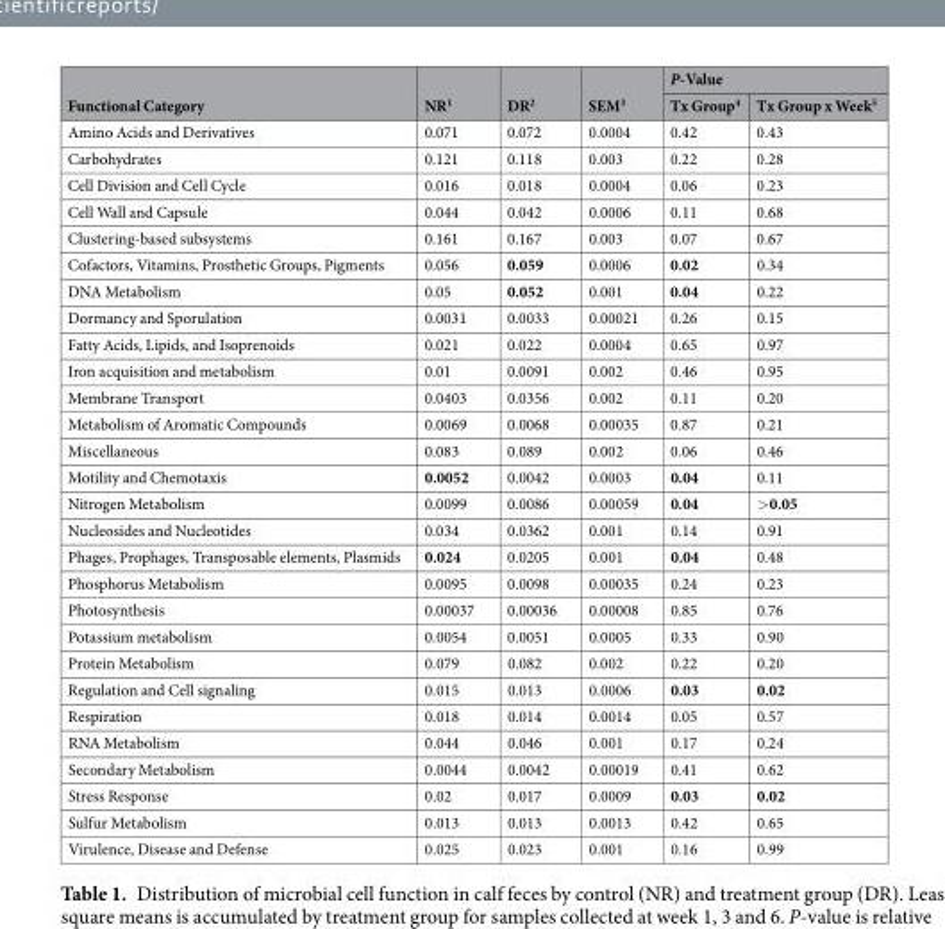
<table><thead><tr><td rowspan="2">Functional Category</td><td rowspan="2">NR<sup>1</sup></td><td rowspan="2">DR<sup>2</sup></td><td rowspan="2">SEM<sup>3</sup></td><td colspan="2">P-Value</td></tr><tr><td>Tx Group<sup>4</sup></td><td>Tx Group x Week<sup>5</sup></td></tr></thead><tbody><tr><td>Amino Acids and Derivatives</td><td>0.071</td><td>0.072</td><td>0.0004</td><td>0.42</td><td>0.43</td></tr><tr><td>Carbohydrates</td><td>0.121</td><td>0.118</td><td>0.003</td><td>0.22</td><td>0.28</td></tr><tr><td>Cell Division and Cell Cycle</td><td>0.016</td><td>0.018</td><td>0.0004</td><td>0.06</td><td>0.23</td></tr><tr><td>Cell Wall and Capsule</td><td>0.044</td><td>0.042</td><td>0.0006</td><td>0.11</td><td>0.68</td></tr><tr><td>Clustering-based subsystems</td><td>0.161</td><td>0.167</td><td>0.003</td><td>0.07</td><td>0.67</td></tr><tr><td>Cofactors, Vitamins, Prosthetic Groups, Pigments</td><td>0.056</td><td>0.059</td><td>0.0006</td><td>0.02</td><td>0.34</td></tr><tr><td>DNA Metabolism</td><td>0.05</td><td>0.052</td><td>0.001</td><td>0.04</td><td>0.22</td></tr><tr><td>Dormancy and Sporulation</td><td>0.0031</td><td>0.0033</td><td>0.00021</td><td>0.26</td><td>0.15</td></tr><tr><td>Fatty Acids, Lipids, and Isoprenoids</td><td>0.021</td><td>0.022</td><td>0.0004</td><td>0.65</td><td>0.97</td></tr><tr><td>Iron acquisition and metabolism</td><td>0.01</td><td>0.0091</td><td>0.002</td><td>0.46</td><td>0.95</td></tr><tr><td>Membrane Transport</td><td>0.0403</td><td>0.0356</td><td>0.002</td><td>0.11</td><td>0.20</td></tr><tr><td>Metabolism of Aromatic Compounds</td><td>0.0069</td><td>0.0068</td><td>0.00035</td><td>0.87</td><td>0.21</td></tr><tr><td>Miscellaneous</td><td>0.083</td><td>0.089</td><td>0.002</td><td>0.06</td><td>0.46</td></tr><tr><td>Motility and Chemotaxis</td><td>0.0052</td><td>0.0042</td><td>0.0003</td><td>0.04</td><td>0.11</td></tr><tr><td>Nitrogen Metabolism</td><td>0.0099</td><td>0.0086</td><td>0.00059</td><td>0.04</td><td>&gt;0.05</td></tr><tr><td>Nucleosides and Nucleotides</td><td>0.034</td><td>0.0362</td><td>0.001</td><td>0.14</td><td>0.91</td></tr><tr><td>Phages, Prophages, Transposable elements, Plasmids</td><td>0.024</td><td>0.0205</td><td>0.001</td><td>0.04</td><td>0.48</td></tr><tr><td>Phosphorus Metabolism</td><td>0.0095</td><td>0.0098</td><td>0.00035</td><td>0.24</td><td>0.23</td></tr><tr><td>Photosynthesis</td><td>0.00037</td><td>0.00036</td><td>0.00008</td><td>0.85</td><td>0.76</td></tr><tr><td>Potassium metabolism</td><td>0.0054</td><td>0.0051</td><td>0.0005</td><td>0.33</td><td>0.90</td></tr><tr><td>Protein Metabolism</td><td>0.079</td><td>0.082</td><td>0.002</td><td>0.22</td><td>0.20</td></tr><tr><td>Regulation and Cell signaling</td><td>0.015</td><td>0.013</td><td>0.0006</td><td>0.03</td><td>0.02</td></tr><tr><td>Respiration</td><td>0.018</td><td>0.014</td><td>0.0014</td><td>0.05</td><td>0.57</td></tr><tr><td>RNA Metabolism</td><td>0.044</td><td>0.046</td><td>0.001</td><td>0.17</td><td>0.24</td></tr><tr><td>Secondary Metabolism</td><td>0.0044</td><td>0.0042</td><td>0.00019</td><td>0.41</td><td>0.62</td></tr><tr><td>Stress Response</td><td>0.02</td><td>0.017</td><td>0.0009</td><td>0.03</td><td>0.02</td></tr><tr><td>Sulfur Metabolism</td><td>0.013</td><td>0.013</td><td>0.0013</td><td>0.42</td><td>0.65</td></tr><tr><td>Virulence, Disease and Defense</td><td>0.025</td><td>0.023</td><td>0.001</td><td>0.16</td><td>0.99</td></tr></tbody></table>